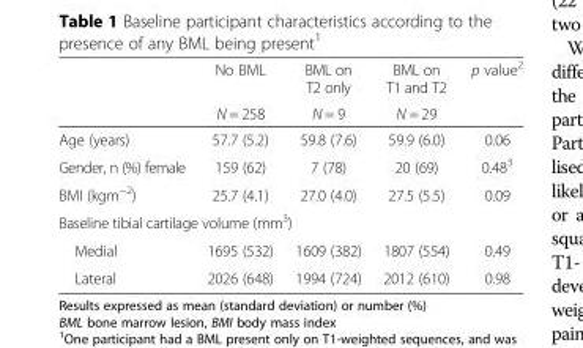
<table><thead><tr><td rowspan="2"></td><td rowspan="2">No BML N = 258</td><td rowspan="2">BML on T2 only N = 9</td><td rowspan="2">BML on T1 and T2 N = 29</td><td rowspan="2">p value<sup>2</sup></td></tr><tr></tr></thead><tbody><tr><td>Age (years)</td><td>57.7 (5.2)</td><td>59.8 (7.6)</td><td>59.9 (6.0)</td><td>0.06</td></tr><tr><td>Gender, n (%) female</td><td>159 (62)</td><td>7 (78)</td><td>20 (69)</td><td>0.48<sup>3</sup></td></tr><tr><td>BMI (kgm<sup>−2</sup>)</td><td>25.7 (4.1)</td><td>27.0 (4.0)</td><td>27.5 (5.5)</td><td>0.09</td></tr><tr><td colspan="5">Baseline tibial cartilage volume (mm<sup>3</sup>)</td></tr><tr><td>Medial</td><td>1695 (532)</td><td>1609 (382)</td><td>1807 (554)</td><td>0.49</td></tr><tr><td>Lateral</td><td>2026 (648)</td><td>1994 (724)</td><td>2012 (610)</td><td>0.98</td></tr></tbody></table>